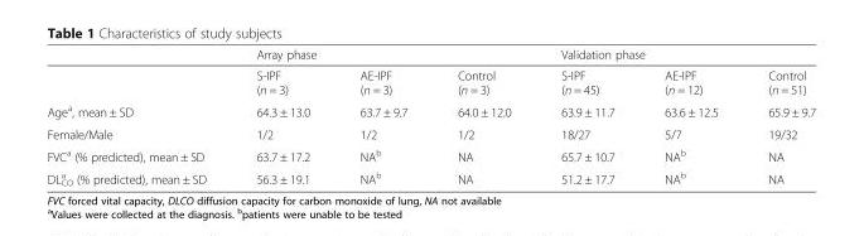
<table><thead><tr><td rowspan="2"></td><td colspan="3">Array phase</td><td colspan="3">Validation phase</td></tr><tr><td>S-IPF (n = 3)</td><td>AE-IPF (n = 3)</td><td>Control (n = 3)</td><td>S-IPF (n = 45)</td><td>AE-IPF (n = 12)</td><td>Control (n = 51)</td></tr></thead><tbody><tr><td>Age<sup>a</sup>, mean ± SD</td><td>64.3 ± 13.0</td><td>63.7 ± 9.7</td><td>64.0 ± 12.0</td><td>63.9 ± 11.7</td><td>63.6 ± 12.5</td><td>65.9 ± 9.7</td></tr><tr><td>Female/Male</td><td>1/2</td><td>1/2</td><td>1/2</td><td>18/27</td><td>5/7</td><td>19/32</td></tr><tr><td>FVC<sup>a</sup> (% predicted), mean ± SD</td><td>63.7 ± 17.2</td><td>NA<sup>b</sup></td><td>NA</td><td>65.7 ± 10.7</td><td>NA<sup>b</sup></td><td>NA</td></tr><tr><td>DL<sub>CO</sub> <sup>a</sup> (% predicted), mean ± SD</td><td>56.3 ± 19.1</td><td>NA<sup>b</sup></td><td>NA</td><td>51.2 ± 17.7</td><td>NA<sup>b</sup></td><td>NA</td></tr></tbody></table>